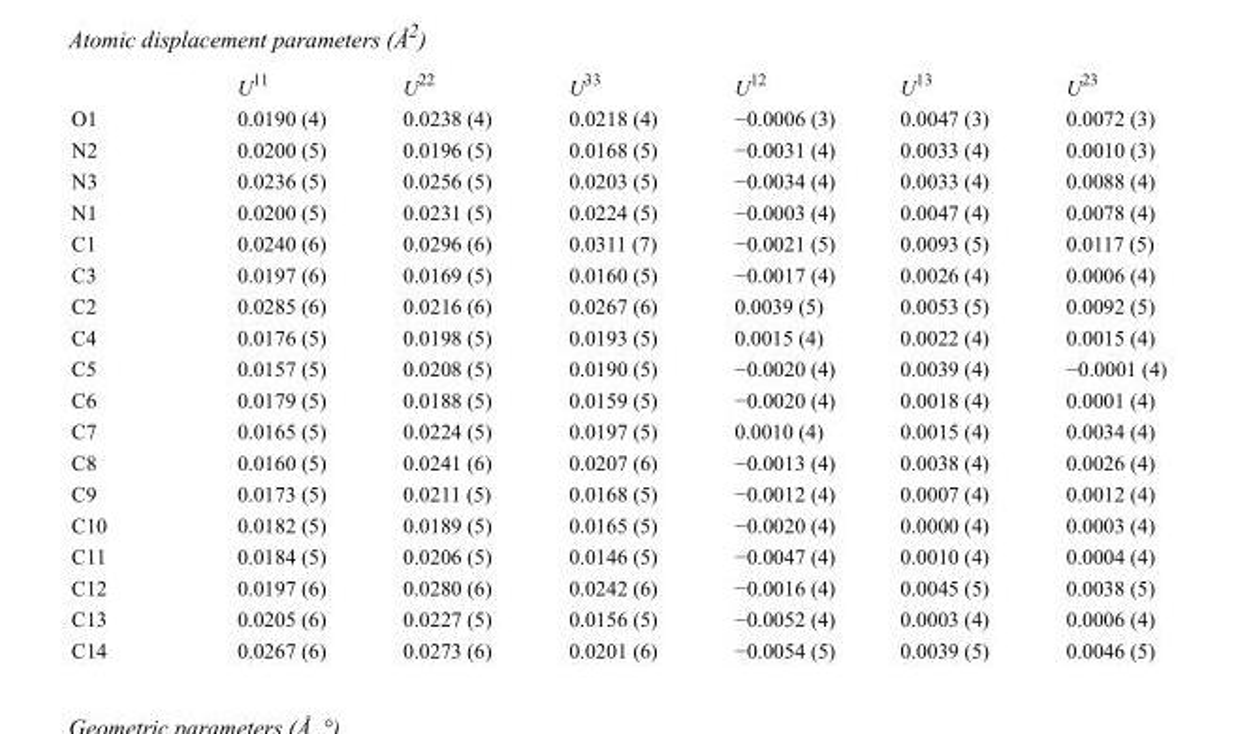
<table><thead><tr><td></td><td>U<sup>11</sup></td><td>U<sup>22</sup></td><td>U<sup>33</sup></td><td>U<sup>12</sup></td><td>U<sup>13</sup></td><td>U<sup>23</sup></td></tr></thead><tbody><tr><td>O1</td><td>0.0190 (4)</td><td>0.0238 (4)</td><td>0.0218 (4)</td><td>−0.0006 (3)</td><td>0.0047 (3)</td><td>0.0072 (3)</td></tr><tr><td>N2</td><td>0.0200 (5)</td><td>0.0196 (5)</td><td>0.0168 (5)</td><td>−0.0031 (4)</td><td>0.0033 (4)</td><td>0.0010 (3)</td></tr><tr><td>N3</td><td>0.0236 (5)</td><td>0.0256 (5)</td><td>0.0203 (5)</td><td>−0.0034 (4)</td><td>0.0033 (4)</td><td>0.0088 (4)</td></tr><tr><td>N1</td><td>0.0200 (5)</td><td>0.0231 (5)</td><td>0.0224 (5)</td><td>−0.0003 (4)</td><td>0.0047 (4)</td><td>0.0078 (4)</td></tr><tr><td>C1</td><td>0.0240 (6)</td><td>0.0296 (6)</td><td>0.0311 (7)</td><td>−0.0021 (5)</td><td>0.0093 (5)</td><td>0.0117 (5)</td></tr><tr><td>C3</td><td>0.0197 (6)</td><td>0.0169 (5)</td><td>0.0160 (5)</td><td>−0.0017 (4)</td><td>0.0026 (4)</td><td>0.0006 (4)</td></tr><tr><td>C2</td><td>0.0285 (6)</td><td>0.0216 (6)</td><td>0.0267 (6)</td><td>0.0039 (5)</td><td>0.0053 (5)</td><td>0.0092 (5)</td></tr><tr><td>C4</td><td>0.0176 (5)</td><td>0.0198 (5)</td><td>0.0193 (5)</td><td>0.0015 (4)</td><td>0.0022 (4)</td><td>0.0015 (4)</td></tr><tr><td>C5</td><td>0.0157 (5)</td><td>0.0208 (5)</td><td>0.0190 (5)</td><td>−0.0020 (4)</td><td>0.0039 (4)</td><td>−0.0001 (4)</td></tr><tr><td>C6</td><td>0.0179 (5)</td><td>0.0188 (5)</td><td>0.0159 (5)</td><td>−0.0020 (4)</td><td>0.0018 (4)</td><td>0.0001 (4)</td></tr><tr><td>C7</td><td>0.0165 (5)</td><td>0.0224 (5)</td><td>0.0197 (5)</td><td>0.0010 (4)</td><td>0.0015 (4)</td><td>0.0034 (4)</td></tr><tr><td>C8</td><td>0.0160 (5)</td><td>0.0241 (6)</td><td>0.0207 (6)</td><td>−0.0013 (4)</td><td>0.0038 (4)</td><td>0.0026 (4)</td></tr><tr><td>C9</td><td>0.0173 (5)</td><td>0.0211 (5)</td><td>0.0168 (5)</td><td>−0.0012 (4)</td><td>0.0007 (4)</td><td>0.0012 (4)</td></tr><tr><td>C10</td><td>0.0182 (5)</td><td>0.0189 (5)</td><td>0.0165 (5)</td><td>−0.0020 (4)</td><td>0.0000 (4)</td><td>0.0003 (4)</td></tr><tr><td>C11</td><td>0.0184 (5)</td><td>0.0206 (5)</td><td>0.0146 (5)</td><td>−0.0047 (4)</td><td>0.0010 (4)</td><td>0.0004 (4)</td></tr><tr><td>C12</td><td>0.0197 (6)</td><td>0.0280 (6)</td><td>0.0242 (6)</td><td>−0.0016 (4)</td><td>0.0045 (5)</td><td>0.0038 (5)</td></tr><tr><td>C13</td><td>0.0205 (6)</td><td>0.0227 (5)</td><td>0.0156 (5)</td><td>−0.0052 (4)</td><td>0.0003 (4)</td><td>0.0006 (4)</td></tr><tr><td>C14</td><td>0.0267 (6)</td><td>0.0273 (6)</td><td>0.0201 (6)</td><td>−0.0054 (5)</td><td>0.0039 (5)</td><td>0.0046 (5)</td></tr></tbody></table>